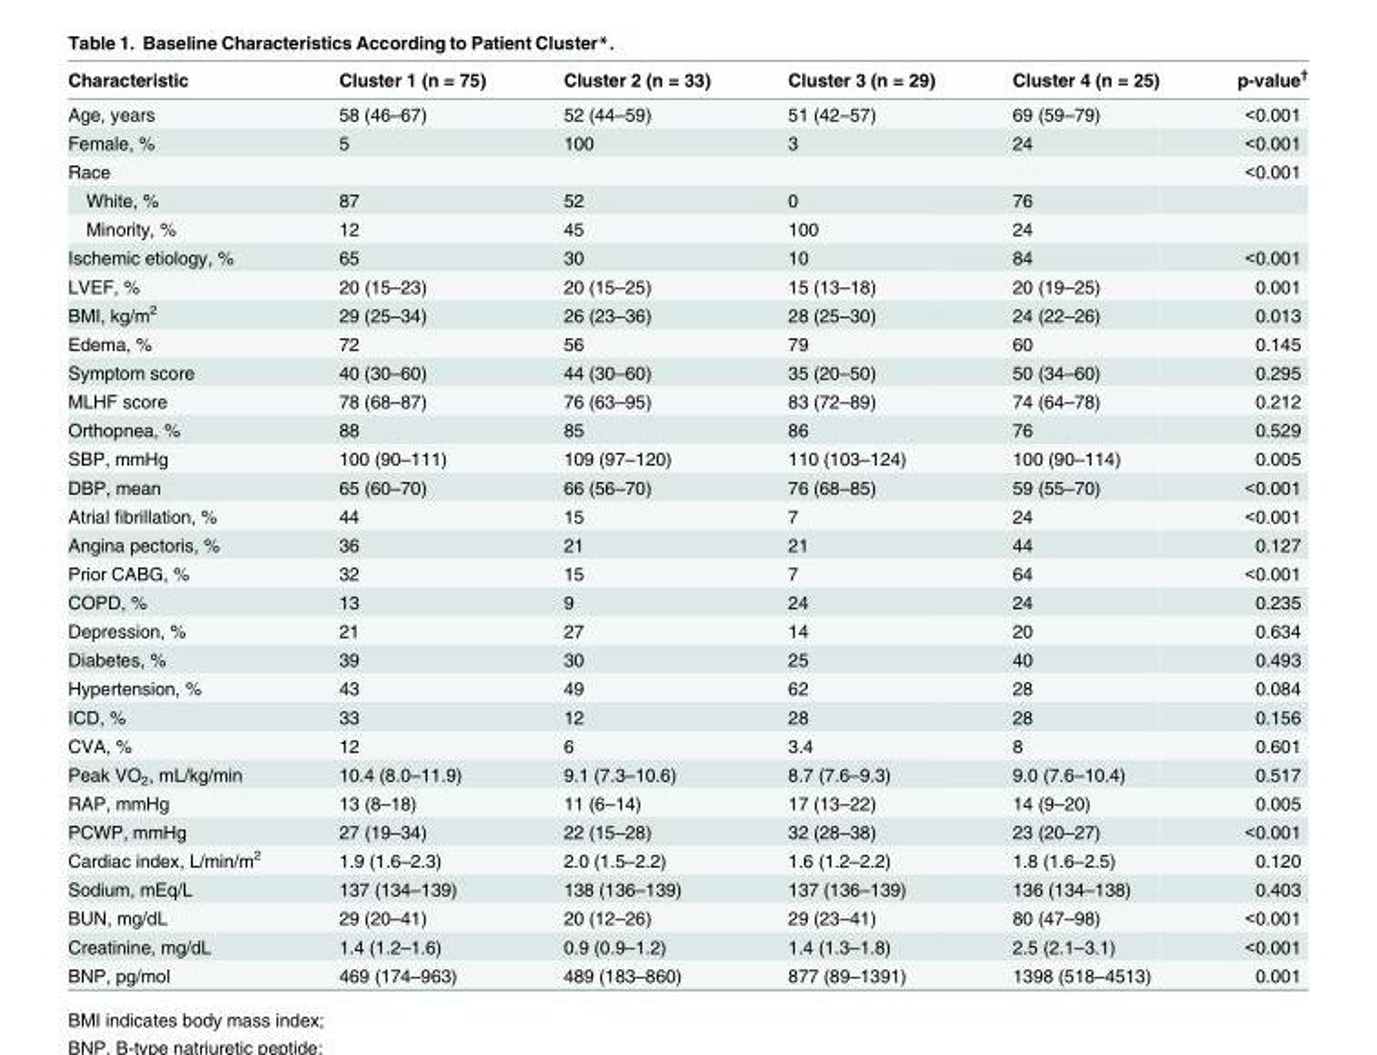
<table><thead><tr><td>Characteristic</td><td>Cluster 1 (n = 75)</td><td>Cluster 2 (n = 33)</td><td>Cluster 3 (n = 29)</td><td>Cluster 4 (n = 25)</td><td>p-value<sup>†</sup></td></tr></thead><tbody><tr><td>Age, years</td><td>58 (46–67)</td><td>52 (44–59)</td><td>51 (42–57)</td><td>69 (59–79)</td><td>&lt;0.001</td></tr><tr><td>Female, %</td><td>5</td><td>100</td><td>3</td><td>24</td><td>&lt;0.001</td></tr><tr><td>Race</td><td></td><td></td><td></td><td></td><td>&lt;0.001</td></tr><tr><td>White, %</td><td>87</td><td>52</td><td>0</td><td>76</td><td></td></tr><tr><td>Minority, %</td><td>12</td><td>45</td><td>100</td><td>24</td><td></td></tr><tr><td>Ischemic etiology, %</td><td>65</td><td>30</td><td>10</td><td>84</td><td>&lt;0.001</td></tr><tr><td>LVEF, %</td><td>20 (15–23)</td><td>20 (15–25)</td><td>15 (13–18)</td><td>20 (19–25)</td><td>0.001</td></tr><tr><td>BMI, kg/m<sup>2</sup></td><td>29 (25–34)</td><td>26 (23–36)</td><td>28 (25–30)</td><td>24 (22–26)</td><td>0.013</td></tr><tr><td>Edema, %</td><td>72</td><td>56</td><td>79</td><td>60</td><td>0.145</td></tr><tr><td>Symptom score</td><td>40 (30–60)</td><td>44 (30–60)</td><td>35 (20–50)</td><td>50 (34–60)</td><td>0.295</td></tr><tr><td>MLHF score</td><td>78 (68–87)</td><td>76 (63–95)</td><td>83 (72–89)</td><td>74 (64–78)</td><td>0.212</td></tr><tr><td>Orthopnea, %</td><td>88</td><td>85</td><td>86</td><td>76</td><td>0.529</td></tr><tr><td>SBP, mmHg</td><td>100 (90–111)</td><td>109 (97–120)</td><td>110 (103–124)</td><td>100 (90–114)</td><td>0.005</td></tr><tr><td>DBP, mean</td><td>65 (60–70)</td><td>66 (56–70)</td><td>76 (68–85)</td><td>59 (55–70)</td><td>&lt;0.001</td></tr><tr><td>Atrial fibrillation, %</td><td>44</td><td>15</td><td>7</td><td>24</td><td>&lt;0.001</td></tr><tr><td>Angina pectoris, %</td><td>36</td><td>21</td><td>21</td><td>44</td><td>0.127</td></tr><tr><td>Prior CABG, %</td><td>32</td><td>15</td><td>7</td><td>64</td><td>&lt;0.001</td></tr><tr><td>COPD, %</td><td>13</td><td>9</td><td>24</td><td>24</td><td>0.235</td></tr><tr><td>Depression, %</td><td>21</td><td>27</td><td>14</td><td>20</td><td>0.634</td></tr><tr><td>Diabetes, %</td><td>39</td><td>30</td><td>25</td><td>40</td><td>0.493</td></tr><tr><td>Hypertension, %</td><td>43</td><td>49</td><td>62</td><td>28</td><td>0.084</td></tr><tr><td>ICD, %</td><td>33</td><td>12</td><td>28</td><td>28</td><td>0.156</td></tr><tr><td>CVA, %</td><td>12</td><td>6</td><td>3.4</td><td>8</td><td>0.601</td></tr><tr><td>Peak VO<sub>2</sub>, mL/kg/min</td><td>10.4 (8.0–11.9)</td><td>9.1 (7.3–10.6)</td><td>8.7 (7.6–9.3)</td><td>9.0 (7.6–10.4)</td><td>0.517</td></tr><tr><td>RAP, mmHg</td><td>13 (8–18)</td><td>11 (6–14)</td><td>17 (13–22)</td><td>14 (9–20)</td><td>0.005</td></tr><tr><td>PCWP, mmHg</td><td>27 (19–34)</td><td>22 (15–28)</td><td>32 (28–38)</td><td>23 (20–27)</td><td>&lt;0.001</td></tr><tr><td>Cardiac index, L/min/m<sup>2</sup></td><td>1.9 (1.6–2.3)</td><td>2.0 (1.5–2.2)</td><td>1.6 (1.2–2.2)</td><td>1.8 (1.6–2.5)</td><td>0.120</td></tr><tr><td>Sodium, mEq/L</td><td>137 (134–139)</td><td>138 (136–139)</td><td>137 (136–139)</td><td>136 (134–138)</td><td>0.403</td></tr><tr><td>BUN, mg/dL</td><td>29 (20–41)</td><td>20 (12–26)</td><td>29 (23–41)</td><td>80 (47–98)</td><td>&lt;0.001</td></tr><tr><td>Creatinine, mg/dL</td><td>1.4 (1.2–1.6)</td><td>0.9 (0.9–1.2)</td><td>1.4 (1.3–1.8)</td><td>2.5 (2.1–3.1)</td><td>&lt;0.001</td></tr><tr><td>BNP, pg/mol</td><td>469 (174–963)</td><td>489 (183–860)</td><td>877 (89–1391)</td><td>1398 (518–4513)</td><td>0.001</td></tr></tbody></table>